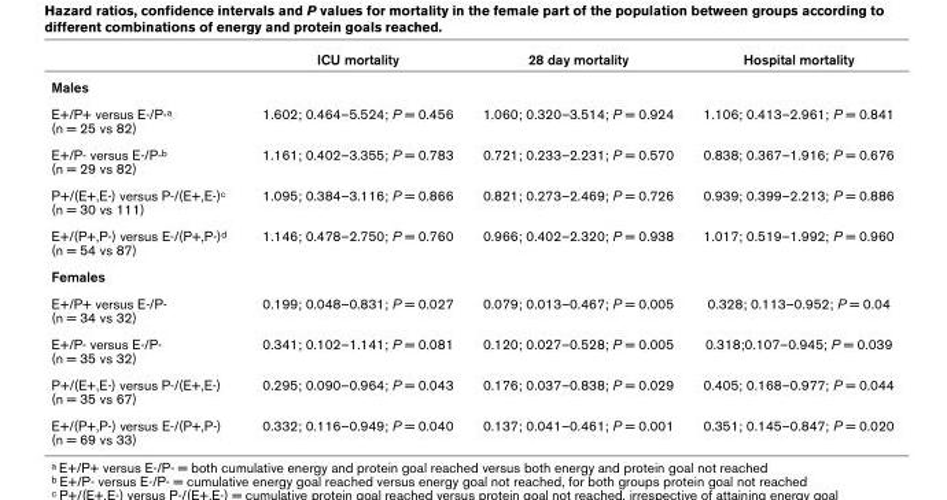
<table><thead><tr><td></td><td>ICU mortality</td><td>28 day mortality</td><td>Hospital mortality</td></tr></thead><tbody><tr><td colspan="4">Males</td></tr><tr><td>E+/P+ versus E-/P-<sup>a</sup> (n = 25 vs 82)</td><td>1.602; 0.464–5.524; P = 0.456</td><td>1.060; 0.320–3.514; P = 0.924</td><td>1.106; 0.413–2.961; P = 0.841</td></tr><tr><td>E+/P- versus E-/P-<sup>b</sup> (n = 29 vs 82)</td><td>1.161; 0.402–3.355; P = 0.783</td><td>0.721; 0.233–2.231; P = 0.570</td><td>0.838; 0.367–1.916; P = 0.676</td></tr><tr><td>P+/(E+,E-) versus P-/(E+,E-)<sup>c</sup> (n = 30 vs 111)</td><td>1.095; 0.384–3.116; P = 0.866</td><td>0.821; 0.273–2.469; P = 0.726</td><td>0.939; 0.399–2.213; P = 0.886</td></tr><tr><td>E+/(P+,P-) versus E-/(P+,P-)<sup>d</sup> (n = 54 vs 87)</td><td>1.146; 0.478–2.750; P = 0.760</td><td>0.966; 0.402–2.320; P = 0.938</td><td>1.017; 0.519–1.992; P = 0.960</td></tr><tr><td colspan="4">Females</td></tr><tr><td>E+/P+ versus E-/P- (n = 34 vs 32)</td><td>0.199; 0.048–0.831; P = 0.027</td><td>0.079; 0.013–0.467; P = 0.005</td><td>0.328; 0.113–0.952; P = 0.04</td></tr><tr><td>E+/P- versus E-/P- (n = 35 vs 32)</td><td>0.341; 0.102–1.141; P = 0.081</td><td>0.120; 0.027–0.528; P = 0.005</td><td>0.318;0.107–0.945; P = 0.039</td></tr><tr><td>P+/(E+,E-) versus P-/(E+,E-) (n = 35 vs 67)</td><td>0.295; 0.090–0.964; P = 0.043</td><td>0.176; 0.037–0.838; P = 0.029</td><td>0.405; 0.168–0.977; P = 0.044</td></tr><tr><td>E+/(P+,P-) versus E-/(P+,P-) (n = 69 vs 33)</td><td>0.332; 0.116–0.949; P = 0.040</td><td>0.137; 0.041–0.461; P = 0.001</td><td>0.351; 0.145–0.847; P = 0.020</td></tr></tbody></table>